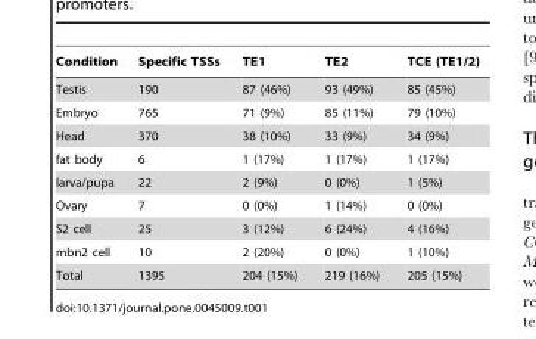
<table><thead><tr><td>Condition</td><td>Specific TSSs</td><td>TE1</td><td>TE2</td><td>TCE (TE1/2)</td></tr></thead><tbody><tr><td>Testis</td><td>190</td><td>87 (46%)</td><td>93 (49%)</td><td>85 (45%)</td></tr><tr><td>Embryo</td><td>765</td><td>71 (9%)</td><td>85 (11%)</td><td>79 (10%)</td></tr><tr><td>Head</td><td>370</td><td>38 (10%)</td><td>33 (9%)</td><td>34 (9%)</td></tr><tr><td>fat body</td><td>6</td><td>1 (17%)</td><td>1 (17%)</td><td>1 (17%)</td></tr><tr><td>larva/pupa</td><td>22</td><td>2 (9%)</td><td>0 (0%)</td><td>1 (5%)</td></tr><tr><td>Ovary</td><td>7</td><td>0 (0%)</td><td>1 (14%)</td><td>0 (0%)</td></tr><tr><td>S2 cell</td><td>25</td><td>3 (12%)</td><td>6 (24%)</td><td>4 (16%)</td></tr><tr><td>mbn2 cell</td><td>10</td><td>2 (20%)</td><td>0 (0%)</td><td>1 (10%)</td></tr><tr><td>Total</td><td>1395</td><td>204 (15%)</td><td>219 (16%)</td><td>205 (15%)</td></tr></tbody></table>